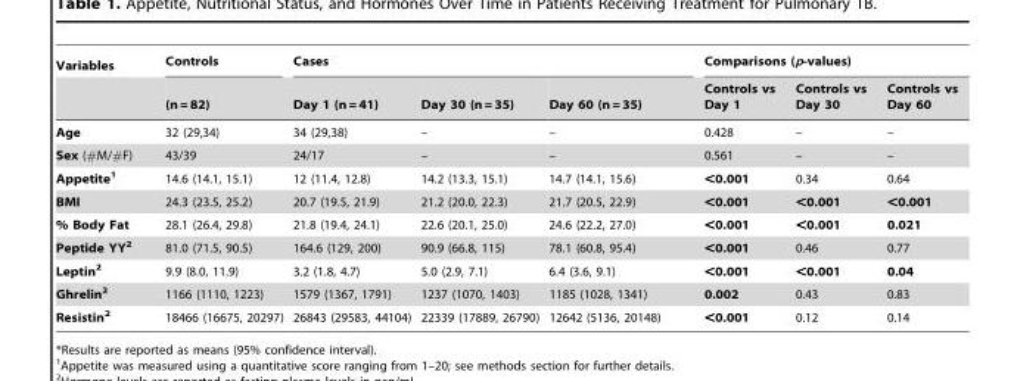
<table><thead><tr><td rowspan="2">Variables</td><td rowspan="2">Controls (n = 82)</td><td colspan="3">Cases</td><td colspan="3">Comparisons (p-values)</td></tr><tr><td>Day 1 (n = 41)</td><td>Day 30 (n = 35)</td><td>Day 60 (n = 35)</td><td>Controls vs Day 1</td><td>Controls vs Day 30</td><td>Controls vs Day 60</td></tr></thead><tbody><tr><td>Age</td><td>32 (29,34)</td><td>34 (29,38)</td><td>–</td><td>–</td><td>0.428</td><td>–</td><td>–</td></tr><tr><td>Sex (#M/#F)</td><td>43/39</td><td>24/17</td><td>–</td><td>–</td><td>0.561</td><td>–</td><td>–</td></tr><tr><td>Appetite<sup>1</sup></td><td>14.6 (14.1, 15.1)</td><td>12 (11.4, 12.8)</td><td>14.2 (13.3, 15.1)</td><td>14.7 (14.1, 15.6)</td><td>&lt;0.001</td><td>0.34</td><td>0.64</td></tr><tr><td>BMI</td><td>24.3 (23.5, 25.2)</td><td>20.7 (19.5, 21.9)</td><td>21.2 (20.0, 22.3)</td><td>21.7 (20.5, 22.9)</td><td>&lt;0.001</td><td>&lt;0.001</td><td>&lt;0.001</td></tr><tr><td>% Body Fat</td><td>28.1 (26.4, 29.8)</td><td>21.8 (19.4, 24.1)</td><td>22.6 (20.1, 25.0)</td><td>24.6 (22.2, 27.0)</td><td>&lt;0.001</td><td>&lt;0.001</td><td>0.021</td></tr><tr><td>Peptide YY<sup>2</sup></td><td>81.0 (71.5, 90.5)</td><td>164.6 (129, 200)</td><td>90.9 (66.8, 115)</td><td>78.1 (60.8, 95.4)</td><td>&lt;0.001</td><td>0.46</td><td>0.77</td></tr><tr><td>Leptin<sup>2</sup></td><td>9.9 (8.0, 11.9)</td><td>3.2 (1.8, 4.7)</td><td>5.0 (2.9, 7.1)</td><td>6.4 (3.6, 9.1)</td><td>&lt;0.001</td><td>&lt;0.001</td><td>0.04</td></tr><tr><td>Ghrelin<sup>2</sup></td><td>1166 (1110, 1223)</td><td>1579 (1367, 1791)</td><td>1237 (1070, 1403)</td><td>1185 (1028, 1341)</td><td>0.002</td><td>0.43</td><td>0.83</td></tr><tr><td>Resistin<sup>2</sup></td><td>18466 (16675, 20297)</td><td>26843 (29583, 44104)</td><td>22339 (17889, 26790)</td><td>12642 (5136, 20148)</td><td>&lt;0.001</td><td>0.12</td><td>0.14</td></tr></tbody></table>